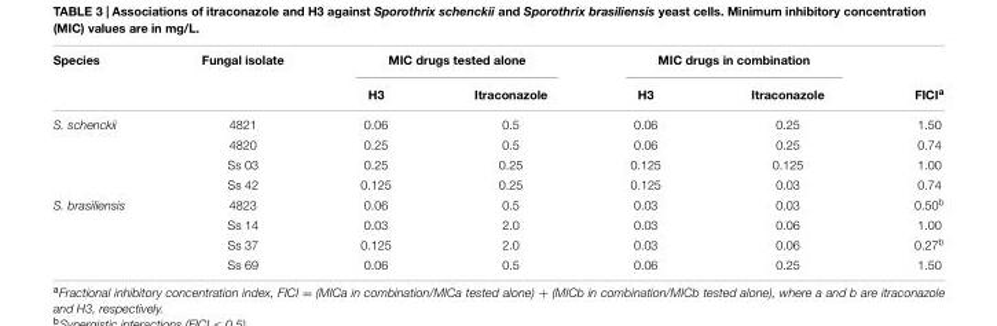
<table><thead><tr><td rowspan="2">Species</td><td rowspan="2">Fungal isolate</td><td colspan="2">MIC drugs tested alone</td><td colspan="2">MIC drugs in combination</td><td rowspan="2">FICI<sup>a</sup></td></tr><tr><td>H3</td><td>Itraconazole</td><td>H3</td><td>Itraconazole</td></tr></thead><tbody><tr><td rowspan="4">S. schenckii</td><td>4821</td><td>0.06</td><td>0.5</td><td>0.06</td><td>0.25</td><td>1.50</td></tr><tr><td>4820</td><td>0.25</td><td>0.5</td><td>0.06</td><td>0.25</td><td>0.74</td></tr><tr><td>Ss 03</td><td>0.25</td><td>0.25</td><td>0.125</td><td>0.125</td><td>1.00</td></tr><tr><td>Ss 42</td><td>0.125</td><td>0.25</td><td>0.125</td><td>0.03</td><td>0.74</td></tr><tr><td rowspan="4">S. brasiliensis</td><td>4823</td><td>0.06</td><td>0.5</td><td>0.03</td><td>0.03</td><td>0.50<sup>b</sup></td></tr><tr><td>Ss 14</td><td>0.03</td><td>2.0</td><td>0.03</td><td>0.06</td><td>1.00</td></tr><tr><td>Ss 37</td><td>0.125</td><td>2.0</td><td>0.03</td><td>0.06</td><td>0.27<sup>b</sup></td></tr><tr><td>Ss 69</td><td>0.06</td><td>0.5</td><td>0.06</td><td>0.25</td><td>1.50</td></tr></tbody></table>